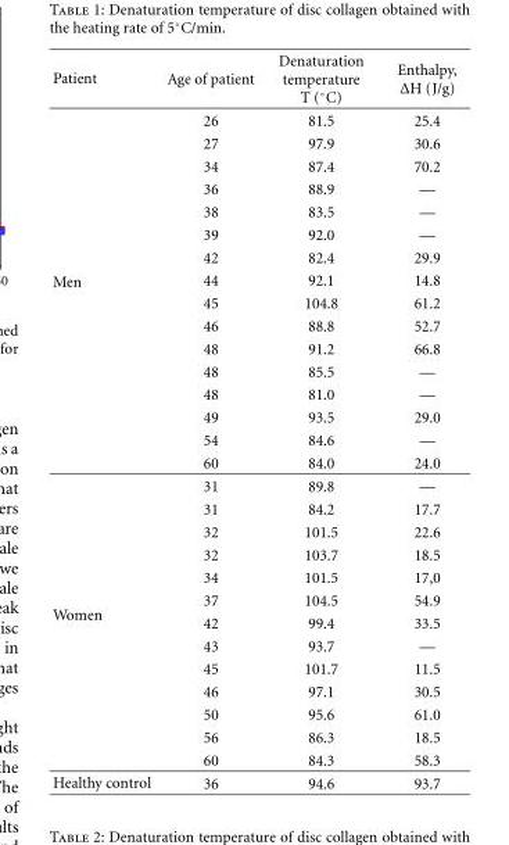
<table><thead><tr><td>Patient</td><td>Age of patient</td><td>Denaturation temperature T (◦C)</td><td>Enthalpy, ΔH (J/g)</td></tr></thead><tbody><tr><td rowspan="16">Men</td><td>26</td><td>81.5</td><td>25.4</td></tr><tr><td>27</td><td>97.9</td><td>30.6</td></tr><tr><td>34</td><td>87.4</td><td>70.2</td></tr><tr><td>36</td><td>88.9</td><td>—</td></tr><tr><td>38</td><td>83.5</td><td>—</td></tr><tr><td>39</td><td>92.0</td><td>—</td></tr><tr><td>42</td><td>82.4</td><td>29.9</td></tr><tr><td>44</td><td>92.1</td><td>14.8</td></tr><tr><td>45</td><td>104.8</td><td>61.2</td></tr><tr><td>46</td><td>88.8</td><td>52.7</td></tr><tr><td>48</td><td>91.2</td><td>66.8</td></tr><tr><td>48</td><td>85.5</td><td>—</td></tr><tr><td>48</td><td>81.0</td><td>—</td></tr><tr><td>49</td><td>93.5</td><td>29.0</td></tr><tr><td>54</td><td>84.6</td><td>—</td></tr><tr><td>60</td><td>84.0</td><td>24.0</td></tr><tr><td rowspan="13">Women</td><td>31</td><td>89.8</td><td>—</td></tr><tr><td>31</td><td>84.2</td><td>17.7</td></tr><tr><td>32</td><td>101.5</td><td>22.6</td></tr><tr><td>32</td><td>103.7</td><td>18.5</td></tr><tr><td>34</td><td>101.5</td><td>17,0</td></tr><tr><td>37</td><td>104.5</td><td>54.9</td></tr><tr><td>42</td><td>99.4</td><td>33.5</td></tr><tr><td>43</td><td>93.7</td><td>—</td></tr><tr><td>45</td><td>101.7</td><td>11.5</td></tr><tr><td>46</td><td>97.1</td><td>30.5</td></tr><tr><td>50</td><td>95.6</td><td>61.0</td></tr><tr><td>56</td><td>86.3</td><td>18.5</td></tr><tr><td>60</td><td>84.3</td><td>58.3</td></tr><tr><td>Healthy control</td><td>36</td><td>94.6</td><td>93.7</td></tr></tbody></table>